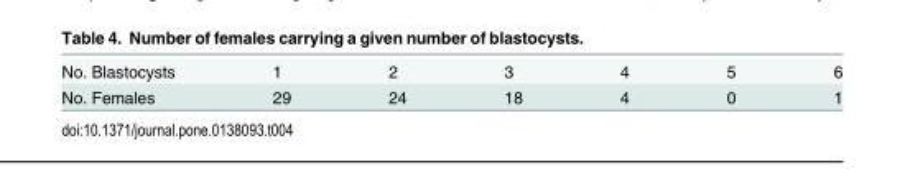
<table><tbody><tr><td>No. Blastocysts</td><td>1</td><td>2</td><td>3</td><td>4</td><td>5</td><td>6</td></tr><tr><td>No. Females</td><td>29</td><td>24</td><td>18</td><td>4</td><td>0</td><td>1</td></tr></tbody></table>